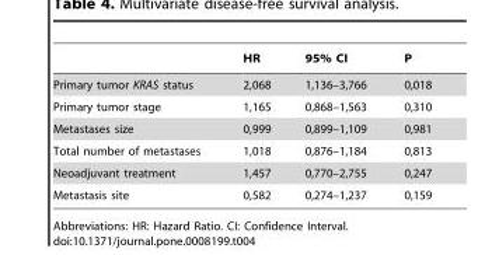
<table><thead><tr><td></td><td>HR</td><td>95% CI</td><td>P</td></tr></thead><tbody><tr><td>Primary tumor KRAS status</td><td>2,068</td><td>1,136–3,766</td><td>0,018</td></tr><tr><td>Primary tumor stage</td><td>1,165</td><td>0,868–1,563</td><td>0,310</td></tr><tr><td>Metastases size</td><td>0,999</td><td>0,899–1,109</td><td>0,981</td></tr><tr><td>Total number of metastases</td><td>1,018</td><td>0,876–1,184</td><td>0,813</td></tr><tr><td>Neoadjuvant treatment</td><td>1,457</td><td>0,770–2,755</td><td>0,247</td></tr><tr><td>Metastasis site</td><td>0,582</td><td>0,274–1,237</td><td>0,159</td></tr></tbody></table>